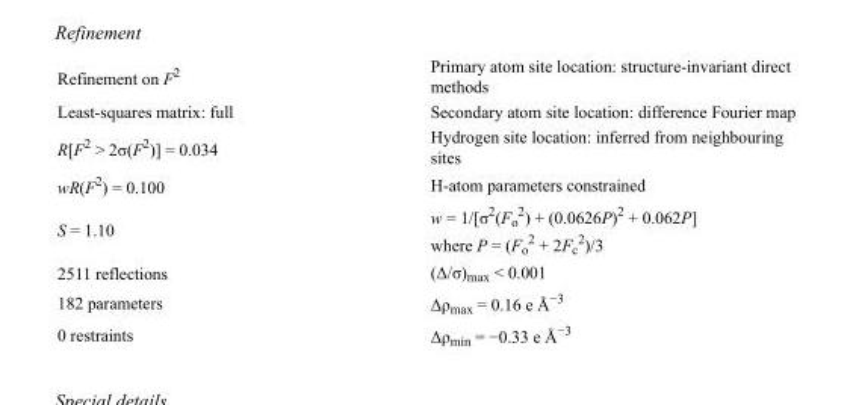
<table><tbody><tr><td>Refinement on F<sup>2</sup></td><td>Primary atom site location: structure-invariant direct methods</td></tr><tr><td>Least-squares matrix: full</td><td>Secondary atom site location: difference Fourier map</td></tr><tr><td>R[F<sup>2</sup> &gt; 2σ(F<sup>2</sup>)] = 0.034</td><td>Hydrogen site location: inferred from neighbouring sites</td></tr><tr><td>wR(F<sup>2</sup>) = 0.100</td><td>H-atom parameters constrained</td></tr><tr><td>S = 1.10</td><td>w = 1/[σ<sup>2</sup>(F<sub>o</sub> <sup>2</sup>) + (0.0626P)<sup>2</sup> + 0.062P] where P = (F<sub>o</sub> <sup>2</sup> + 2F<sub>c</sub> <sup>2</sup>)/3</td></tr><tr><td>2511 reflections</td><td>(Δ/σ)<sub>max</sub> &lt; 0.001</td></tr><tr><td>182 parameters</td><td>Δρ<sub>max</sub> = 0.16 e Å<sup>−3</sup></td></tr><tr><td>0 restraints</td><td>Δρ<sub>min</sub> = −0.33 e Å<sup>−3</sup></td></tr></tbody></table>